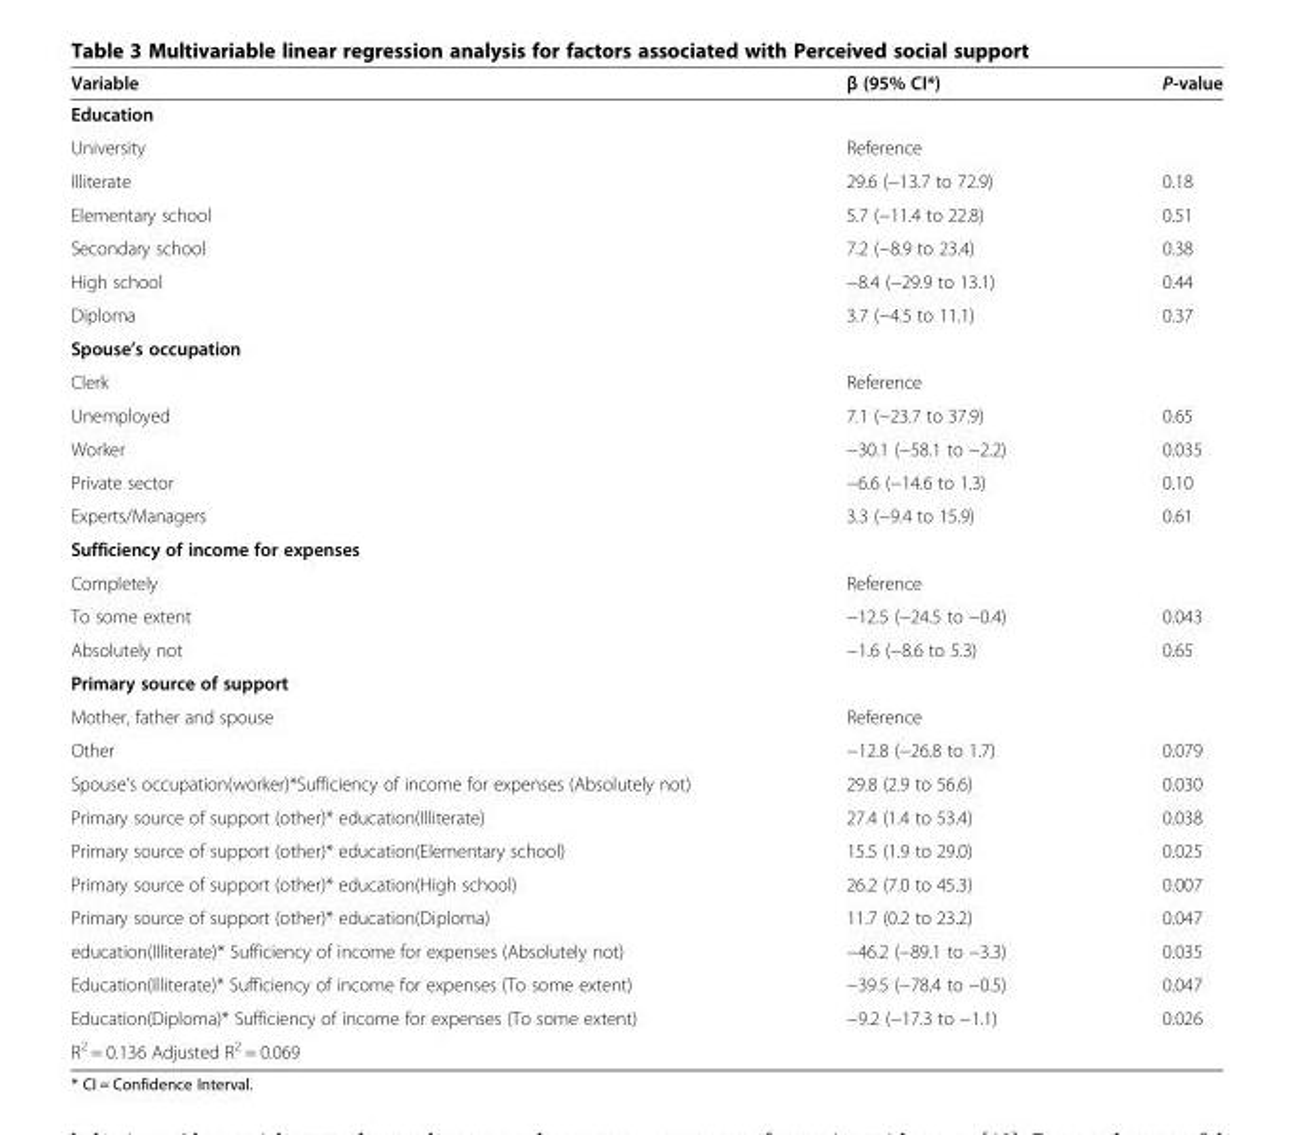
<table><thead><tr><td>Variable</td><td>β (95% CI*)</td><td>P-value</td></tr></thead><tbody><tr><td colspan="3">Education</td></tr><tr><td>University</td><td>Reference</td><td></td></tr><tr><td>Illiterate</td><td>29.6 (−13.7 to 72.9)</td><td>0.18</td></tr><tr><td>Elementary school</td><td>5.7 (−11.4 to 22.8)</td><td>0.51</td></tr><tr><td>Secondary school</td><td>7.2 (−8.9 to 23.4)</td><td>0.38</td></tr><tr><td>High school</td><td>−8.4 (−29.9 to 13.1)</td><td>0.44</td></tr><tr><td>Diploma</td><td>3.7 (−4.5 to 11.1)</td><td>0.37</td></tr><tr><td colspan="3">Spouse’s occupation</td></tr><tr><td>Clerk</td><td>Reference</td><td></td></tr><tr><td>Unemployed</td><td>7.1 (−23.7 to 37.9)</td><td>0.65</td></tr><tr><td>Worker</td><td>−30.1 (−58.1 to −2.2)</td><td>0.035</td></tr><tr><td>Private sector</td><td>−6.6 (−14.6 to 1.3)</td><td>0.10</td></tr><tr><td>Experts/Managers</td><td>3.3 (−9.4 to 15.9)</td><td>0.61</td></tr><tr><td colspan="3">Sufficiency of income for expenses</td></tr><tr><td>Completely</td><td>Reference</td><td></td></tr><tr><td>To some extent</td><td>−12.5 (−24.5 to −0.4)</td><td>0.043</td></tr><tr><td>Absolutely not</td><td>−1.6 (−8.6 to 5.3)</td><td>0.65</td></tr><tr><td colspan="3">Primary source of support</td></tr><tr><td>Mother, father and spouse</td><td>Reference</td><td></td></tr><tr><td>Other</td><td>−12.8 (−26.8 to 1.7)</td><td>0.079</td></tr><tr><td>Spouse’s occupation(worker)*Sufficiency of income for expenses (Absolutely not)</td><td>29.8 (2.9 to 56.6)</td><td>0.030</td></tr><tr><td>Primary source of support (other)* education(Illiterate)</td><td>27.4 (1.4 to 53.4)</td><td>0.038</td></tr><tr><td>Primary source of support (other)* education(Elementary school)</td><td>15.5 (1.9 to 29.0)</td><td>0.025</td></tr><tr><td>Primary source of support (other)* education(High school)</td><td>26.2 (7.0 to 45.3)</td><td>0.007</td></tr><tr><td>Primary source of support (other)* education(Diploma)</td><td>11.7 (0.2 to 23.2)</td><td>0.047</td></tr><tr><td>education(Illiterate)* Sufficiency of income for expenses (Absolutely not)</td><td>−46.2 (−89.1 to −3.3)</td><td>0.035</td></tr><tr><td>Education(Illiterate)* Sufficiency of income for expenses (To some extent)</td><td>−39.5 (−78.4 to −0.5)</td><td>0.047</td></tr><tr><td>Education(Diploma)* Sufficiency of income for expenses (To some extent)</td><td>−9.2 (−17.3 to −1.1)</td><td>0.026</td></tr><tr><td>R<sup>2</sup> = 0.136 Adjusted R<sup>2</sup> = 0.069</td><td></td><td></td></tr></tbody></table>